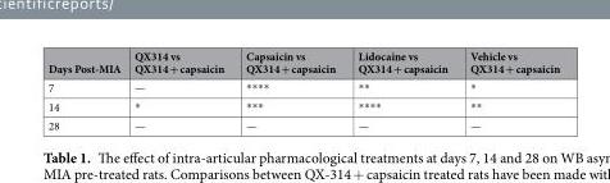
<table><thead><tr><td>Days Post-MIA</td><td>QX314 vs QX314 + capsaicin</td><td>Capsaicin vs QX314 + capsaicin</td><td>Lidocaine vs QX314 + capsaicin</td><td>Vehicle vs QX314 + capsaicin</td></tr></thead><tbody><tr><td>7</td><td>—</td><td>****</td><td>**</td><td>*</td></tr><tr><td>14</td><td>*</td><td>***</td><td>****</td><td>**</td></tr><tr><td>28</td><td>—</td><td>—</td><td>—</td><td>—</td></tr></tbody></table>